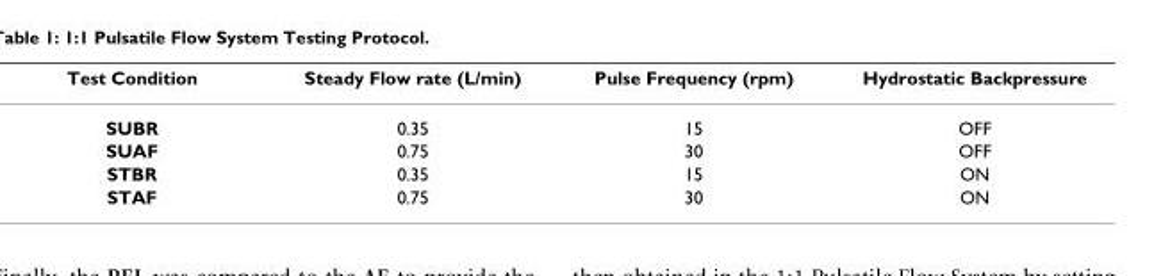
<table><thead><tr><td>Test Condition</td><td>Steady Flow rate (L/min)</td><td>Pulse Frequency (rpm)</td><td>Hydrostatic Backpressure</td></tr></thead><tbody><tr><td>SUBR</td><td>0.35</td><td>15</td><td>OFF</td></tr><tr><td>SUAF</td><td>0.75</td><td>30</td><td>OFF</td></tr><tr><td>STBR</td><td>0.35</td><td>15</td><td>ON</td></tr><tr><td>STAF</td><td>0.75</td><td>30</td><td>ON</td></tr></tbody></table>